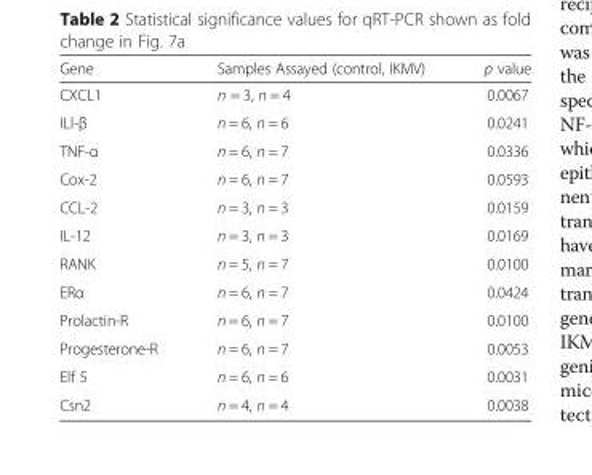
<table><thead><tr><td>Gene</td><td>Samples Assayed (control, IKMV)</td><td>p value</td></tr></thead><tbody><tr><td>CXCL1</td><td>n = 3, n = 4</td><td>0.0067</td></tr><tr><td>ILl-β</td><td>n = 6, n = 6</td><td>0.0241</td></tr><tr><td>TNF-α</td><td>n = 6, n = 7</td><td>0.0336</td></tr><tr><td>Cox-2</td><td>n = 6, n = 7</td><td>0.0593</td></tr><tr><td>CCL-2</td><td>n = 3, n = 3</td><td>0.0159</td></tr><tr><td>IL-12</td><td>n = 3, n = 3</td><td>0.0169</td></tr><tr><td>RANK</td><td>n = 5, n = 7</td><td>0.0100</td></tr><tr><td>ERα</td><td>n = 6, n = 7</td><td>0.0424</td></tr><tr><td>Prolactin-R</td><td>n = 6, n = 7</td><td>0.0100</td></tr><tr><td>Progesterone-R</td><td>n = 6, n = 7</td><td>0.0053</td></tr><tr><td>Elf 5</td><td>n = 6, n = 6</td><td>0.0031</td></tr><tr><td>Csn2</td><td>n = 4, n = 4</td><td>0.0038</td></tr></tbody></table>